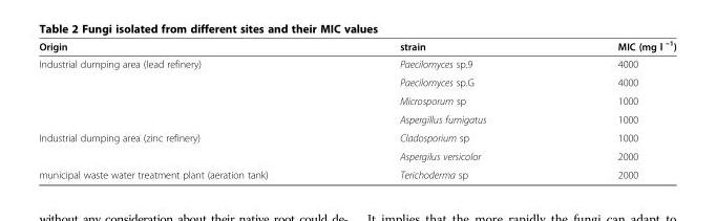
<table><thead><tr><td>Origin</td><td>strain</td><td>MIC (mg l ˉ<sup>1</sup>)</td></tr></thead><tbody><tr><td rowspan="4">Industrial dumping area (lead refinery)</td><td>Paecilomyces sp.9</td><td>4000</td></tr><tr><td>Paecilomyces sp.G</td><td>4000</td></tr><tr><td>Microsporum sp</td><td>1000</td></tr><tr><td>Aspergillus fumigatus</td><td>1000</td></tr><tr><td rowspan="2">Industrial dumping area (zinc refinery)</td><td>Cladosporium sp</td><td>1000</td></tr><tr><td>Aspergilus versicolor</td><td>2000</td></tr><tr><td>municipal waste water treatment plant (aeration tank)</td><td>Terichoderma sp</td><td>2000</td></tr></tbody></table>